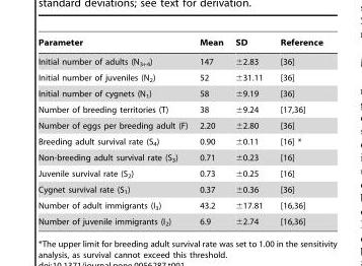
<table><thead><tr><td>Parameter</td><td>Mean</td><td>SD</td><td>Reference</td></tr></thead><tbody><tr><td>Initial number of adults (N<sub>3+4</sub>)</td><td>147</td><td>±2.83</td><td>[36]</td></tr><tr><td>Initial number of juveniles (N<sub>2</sub>)</td><td>52</td><td>±31.11</td><td>[36]</td></tr><tr><td>Initial number of cygnets (N<sub>1</sub>)</td><td>58</td><td>±9.19</td><td>[36]</td></tr><tr><td>Number of breeding territories (T)</td><td>38</td><td>±9.24</td><td>[17,36]</td></tr><tr><td>Number of eggs per breeding adult (F)</td><td>2.20</td><td>±2.80</td><td>[36]</td></tr><tr><td>Breeding adult survival rate (S<sub>4</sub>)</td><td>0.90</td><td>±0.11</td><td>[16] *</td></tr><tr><td>Non-breeding adult survival rate (S<sub>3</sub>)</td><td>0.71</td><td>±0.23</td><td>[16]</td></tr><tr><td>Juvenile survival rate (S<sub>2</sub>)</td><td>0.73</td><td>±0.25</td><td>[16]</td></tr><tr><td>Cygnet survival rate (S<sub>1</sub>)</td><td>0.37</td><td>±0.36</td><td>[36]</td></tr><tr><td>Number of adult immigrants (I<sub>3</sub>)</td><td>43.2</td><td>±17.81</td><td>[16,36]</td></tr><tr><td>Number of juvenile immigrants (I<sub>2</sub>)</td><td>6.9</td><td>±2.74</td><td>[16,36]</td></tr></tbody></table>